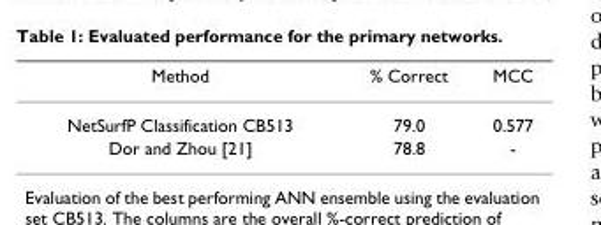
<table><thead><tr><td>Method</td><td>% Correct</td><td>MCC</td></tr></thead><tbody><tr><td>NetSurfP Classification CB513</td><td>79.0</td><td>0.577</td></tr><tr><td>Dor and Zhou [21]</td><td>78.8</td><td>-</td></tr></tbody></table>